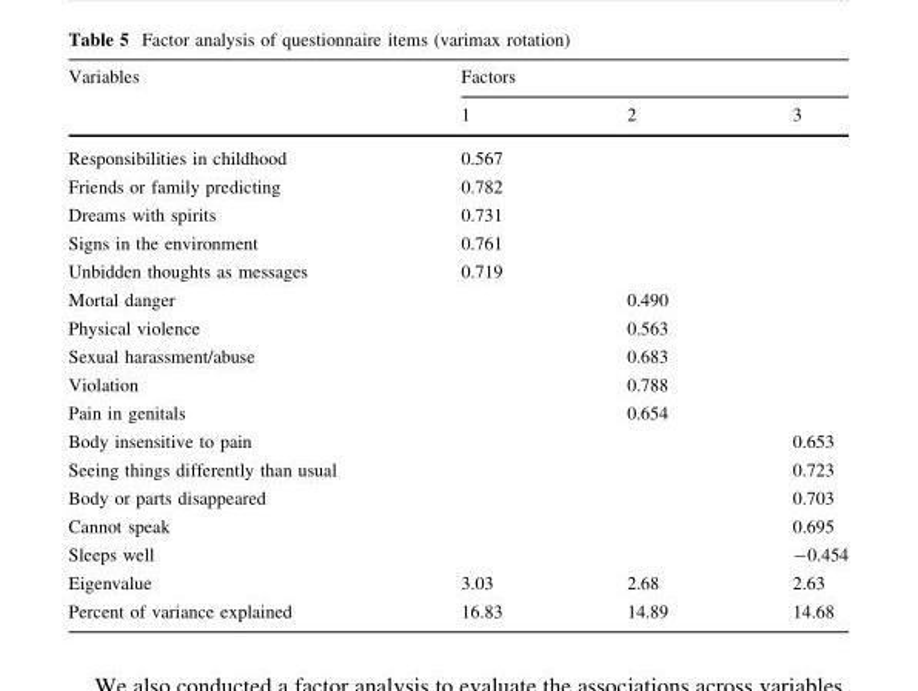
<table><thead><tr><td rowspan="2">Variables</td><td colspan="3">Factors</td></tr><tr><td>1</td><td>2</td><td>3</td></tr></thead><tbody><tr><td>Responsibilities in childhood</td><td>0.567</td><td></td><td></td></tr><tr><td>Friends or family predicting</td><td>0.782</td><td></td><td></td></tr><tr><td>Dreams with spirits</td><td>0.731</td><td></td><td></td></tr><tr><td>Signs in the environment</td><td>0.761</td><td></td><td></td></tr><tr><td>Unbidden thoughts as messages</td><td>0.719</td><td></td><td></td></tr><tr><td>Mortal danger</td><td></td><td>0.490</td><td></td></tr><tr><td>Physical violence</td><td></td><td>0.563</td><td></td></tr><tr><td>Sexual harassment/abuse</td><td></td><td>0.683</td><td></td></tr><tr><td>Violation</td><td></td><td>0.788</td><td></td></tr><tr><td>Pain in genitals</td><td></td><td>0.654</td><td></td></tr><tr><td>Body insensitive to pain</td><td></td><td></td><td>0.653</td></tr><tr><td>Seeing things differently than usual</td><td></td><td></td><td>0.723</td></tr><tr><td>Body or parts disappeared</td><td></td><td></td><td>0.703</td></tr><tr><td>Cannot speak</td><td></td><td></td><td>0.695</td></tr><tr><td>Sleeps well</td><td></td><td></td><td>-0.454</td></tr><tr><td>Eigenvalue</td><td>3.03</td><td>2.68</td><td>2.63</td></tr><tr><td>Percent of variance explained</td><td>16.83</td><td>14.89</td><td>14.68</td></tr></tbody></table>